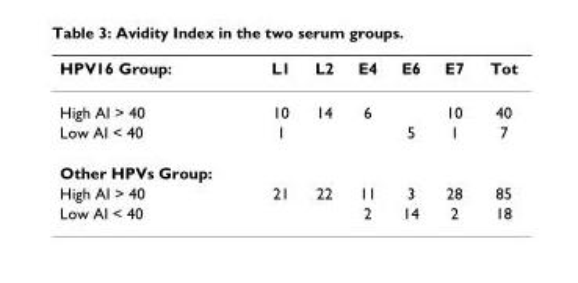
<table><thead><tr><td>HPV16 Group:</td><td>L1</td><td>L2</td><td>E4</td><td>E6</td><td>E7</td><td>Tot</td></tr></thead><tbody><tr><td>High AI &gt; 40</td><td>10</td><td>14</td><td>6</td><td></td><td>10</td><td>40</td></tr><tr><td>Low AI &lt; 40</td><td>1</td><td></td><td></td><td>5</td><td>1</td><td>7</td></tr><tr><td colspan="7">Other HPVs Group:</td></tr><tr><td>High AI &gt; 40</td><td>21</td><td>22</td><td>11</td><td>3</td><td>28</td><td>85</td></tr><tr><td>Low AI &lt; 40</td><td></td><td></td><td>2</td><td>14</td><td>2</td><td>18</td></tr></tbody></table>